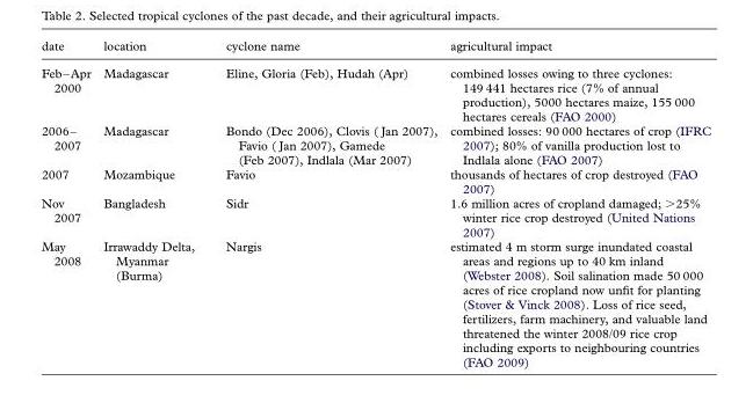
<table><thead><tr><td>date</td><td>location</td><td>cyclone name</td><td>agricultural impact</td></tr></thead><tbody><tr><td>Feb–Apr 2000</td><td>Madagascar</td><td>Eline, Gloria (Feb), Hudah (Apr)</td><td>combined losses owing to three cyclones: 149 441 hectares rice (7% of annual production), 5000 hectares maize, 155 000 hectares cereals (FAO 2000)</td></tr><tr><td>2006– 2007</td><td>Madagascar</td><td>Bondo (Dec 2006), Clovis ( Jan 2007), Favio ( Jan 2007), Gamede (Feb 2007), Indlala (Mar 2007)</td><td>combined losses: 90 000 hectares of crop (IFRC 2007); 80% of vanilla production lost to Indlala alone (FAO 2007)</td></tr><tr><td>2007</td><td>Mozambique</td><td>Favio</td><td>thousands of hectares of crop destroyed (FAO 2007)</td></tr><tr><td>Nov 2007</td><td>Bangladesh</td><td>Sidr</td><td>1.6 million acres of cropland damaged; &gt;25% winter rice crop destroyed (United Nations 2007)</td></tr><tr><td>May 2008</td><td>Irrawaddy Delta, Myanmar (Burma)</td><td>Nargis</td><td>estimated 4 m storm surge inundated coastal areas and regions up to 40 km inland (Webster 2008). Soil salination made 50 000 acres of rice cropland now unfit for planting (Stover &amp; Vinck 2008). Loss of rice seed, fertilizers, farm machinery, and valuable land threatened the winter 2008/09 rice crop including exports to neighbouring countries (FAO 2009)</td></tr></tbody></table>